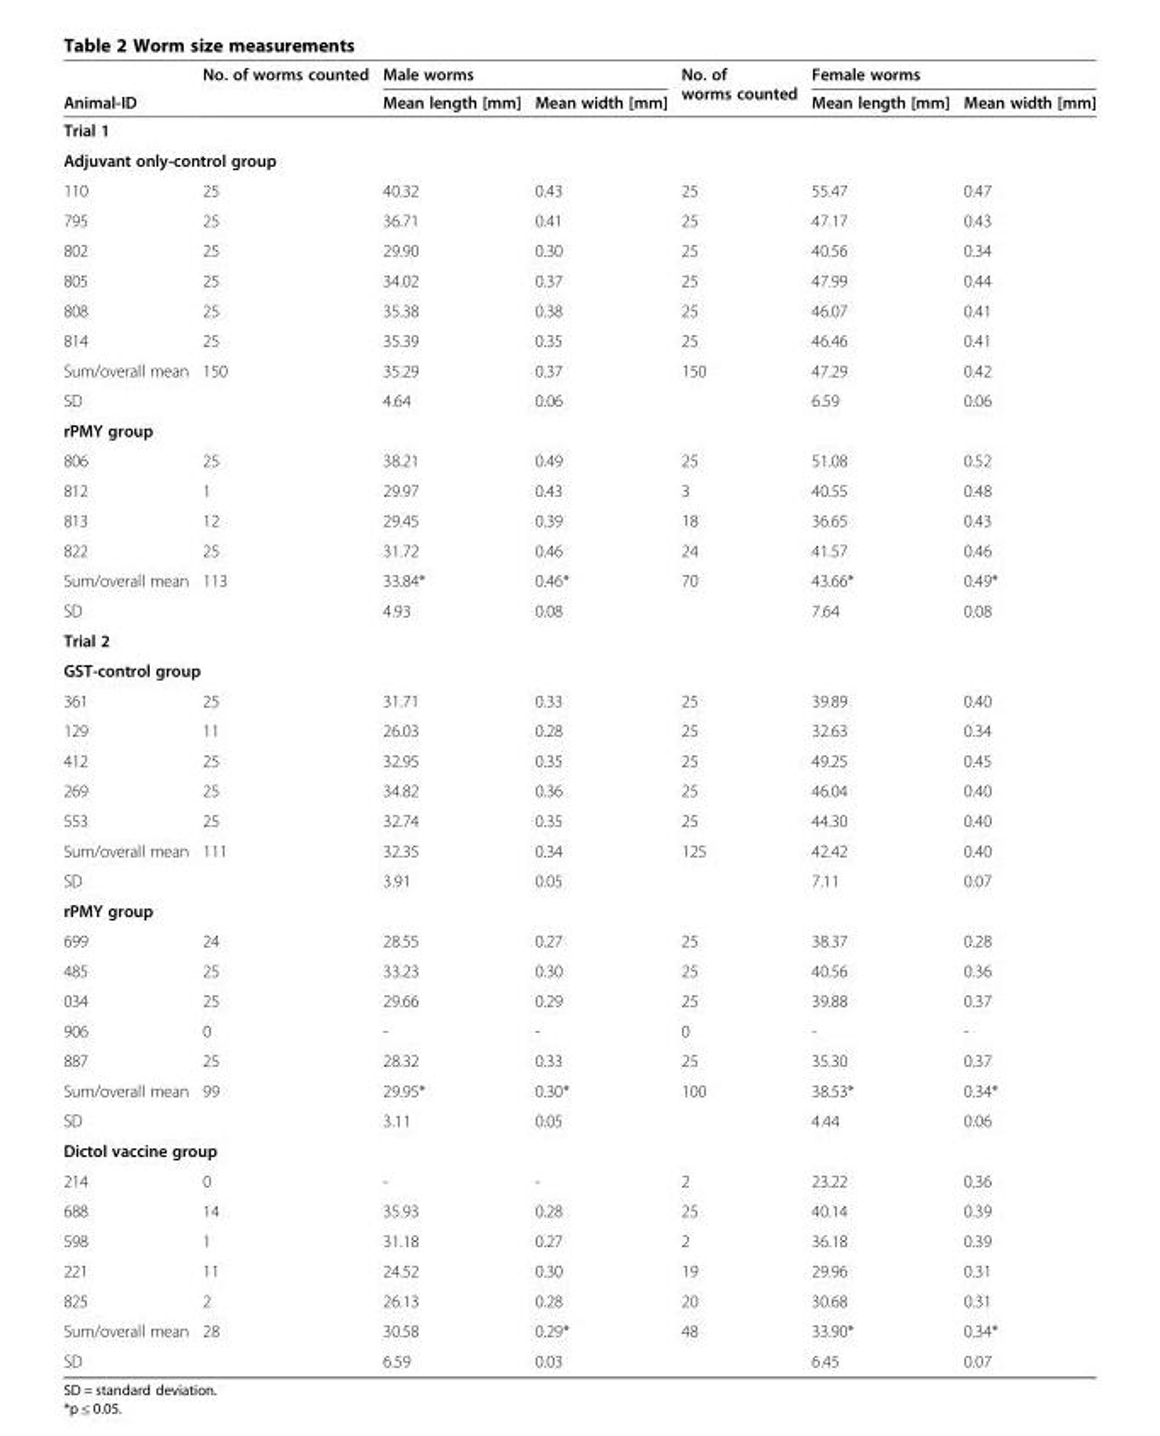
<table><thead><tr><td rowspan="2">Animal-ID</td><td rowspan="2">No. of worms counted</td><td colspan="2">Male worms</td><td rowspan="2">No. of worms counted</td><td colspan="2">Female worms</td></tr><tr><td>Mean length [mm]</td><td>Mean width [mm]</td><td>Mean length [mm]</td><td>Mean width [mm]</td></tr></thead><tbody><tr><td colspan="7">Trial 1</td></tr><tr><td colspan="7">Adjuvant only-control group</td></tr><tr><td>110</td><td>25</td><td>40.32</td><td>0.43</td><td>25</td><td>55.47</td><td>0.47</td></tr><tr><td>795</td><td>25</td><td>36.71</td><td>0.41</td><td>25</td><td>47.17</td><td>0.43</td></tr><tr><td>802</td><td>25</td><td>29.90</td><td>0.30</td><td>25</td><td>40.56</td><td>0.34</td></tr><tr><td>805</td><td>25</td><td>34.02</td><td>0.37</td><td>25</td><td>47.99</td><td>0.44</td></tr><tr><td>808</td><td>25</td><td>35.38</td><td>0.38</td><td>25</td><td>46.07</td><td>0.41</td></tr><tr><td>814</td><td>25</td><td>35.39</td><td>0.35</td><td>25</td><td>46.46</td><td>0.41</td></tr><tr><td>Sum/overall mean</td><td>150</td><td>35.29</td><td>0.37</td><td>150</td><td>47.29</td><td>0.42</td></tr><tr><td>SD</td><td></td><td>4.64</td><td>0.06</td><td></td><td>6.59</td><td>0.06</td></tr><tr><td colspan="7">rPMY group</td></tr><tr><td>806</td><td>25</td><td>38.21</td><td>0.49</td><td>25</td><td>51.08</td><td>0.52</td></tr><tr><td>812</td><td>1</td><td>29.97</td><td>0.43</td><td>3</td><td>40.55</td><td>0.48</td></tr><tr><td>813</td><td>12</td><td>29.45</td><td>0.39</td><td>18</td><td>36.65</td><td>0.43</td></tr><tr><td>822</td><td>25</td><td>31.72</td><td>0.46</td><td>24</td><td>41.57</td><td>0.46</td></tr><tr><td>Sum/overall mean</td><td>113</td><td>33.84*</td><td>0.46*</td><td>70</td><td>43.66*</td><td>0.49*</td></tr><tr><td>SD</td><td></td><td>4.93</td><td>0.08</td><td></td><td>7.64</td><td>0.08</td></tr><tr><td colspan="7">Trial 2</td></tr><tr><td colspan="7">GST-control group</td></tr><tr><td>361</td><td>25</td><td>31.71</td><td>0.33</td><td>25</td><td>39.89</td><td>0.40</td></tr><tr><td>129</td><td>11</td><td>26.03</td><td>0.28</td><td>25</td><td>32.63</td><td>0.34</td></tr><tr><td>412</td><td>25</td><td>32.95</td><td>0.35</td><td>25</td><td>49.25</td><td>0.45</td></tr><tr><td>269</td><td>25</td><td>34.82</td><td>0.36</td><td>25</td><td>46.04</td><td>0.40</td></tr><tr><td>553</td><td>25</td><td>32.74</td><td>0.35</td><td>25</td><td>44.30</td><td>0.40</td></tr><tr><td>Sum/overall mean</td><td>111</td><td>32.35</td><td>0.34</td><td>125</td><td>42.42</td><td>0.40</td></tr><tr><td>SD</td><td></td><td>3.91</td><td>0.05</td><td></td><td>7.11</td><td>0.07</td></tr><tr><td colspan="7">rPMY group</td></tr><tr><td>699</td><td>24</td><td>28.55</td><td>0.27</td><td>25</td><td>38.37</td><td>0.28</td></tr><tr><td>485</td><td>25</td><td>33.23</td><td>0.30</td><td>25</td><td>40.56</td><td>0.36</td></tr><tr><td>034</td><td>25</td><td>29.66</td><td>0.29</td><td>25</td><td>39.88</td><td>0.37</td></tr><tr><td>906</td><td>0</td><td>-</td><td>-</td><td>0</td><td>-</td><td>-</td></tr><tr><td>887</td><td>25</td><td>28.32</td><td>0.33</td><td>25</td><td>35.30</td><td>0.37</td></tr><tr><td>Sum/overall mean</td><td>99</td><td>29.95*</td><td>0.30*</td><td>100</td><td>38.53*</td><td>0.34*</td></tr><tr><td>SD</td><td></td><td>3.11</td><td>0.05</td><td></td><td>4.44</td><td>0.06</td></tr><tr><td colspan="7">Dictol vaccine group</td></tr><tr><td>214</td><td>0</td><td>-</td><td>-</td><td>2</td><td>23.22</td><td>0.36</td></tr><tr><td>688</td><td>14</td><td>35.93</td><td>0.28</td><td>25</td><td>40.14</td><td>0.39</td></tr><tr><td>598</td><td>1</td><td>31.18</td><td>0.27</td><td>2</td><td>36.18</td><td>0.39</td></tr><tr><td>221</td><td>11</td><td>24.52</td><td>0.30</td><td>19</td><td>29.96</td><td>0.31</td></tr><tr><td>825</td><td>2</td><td>26.13</td><td>0.28</td><td>20</td><td>30.68</td><td>0.31</td></tr><tr><td>Sum/overall mean</td><td>28</td><td>30.58</td><td>0.29*</td><td>48</td><td>33.90*</td><td>0.34*</td></tr><tr><td>SD</td><td></td><td>6.59</td><td>0.03</td><td></td><td>6.45</td><td>0.07</td></tr></tbody></table>